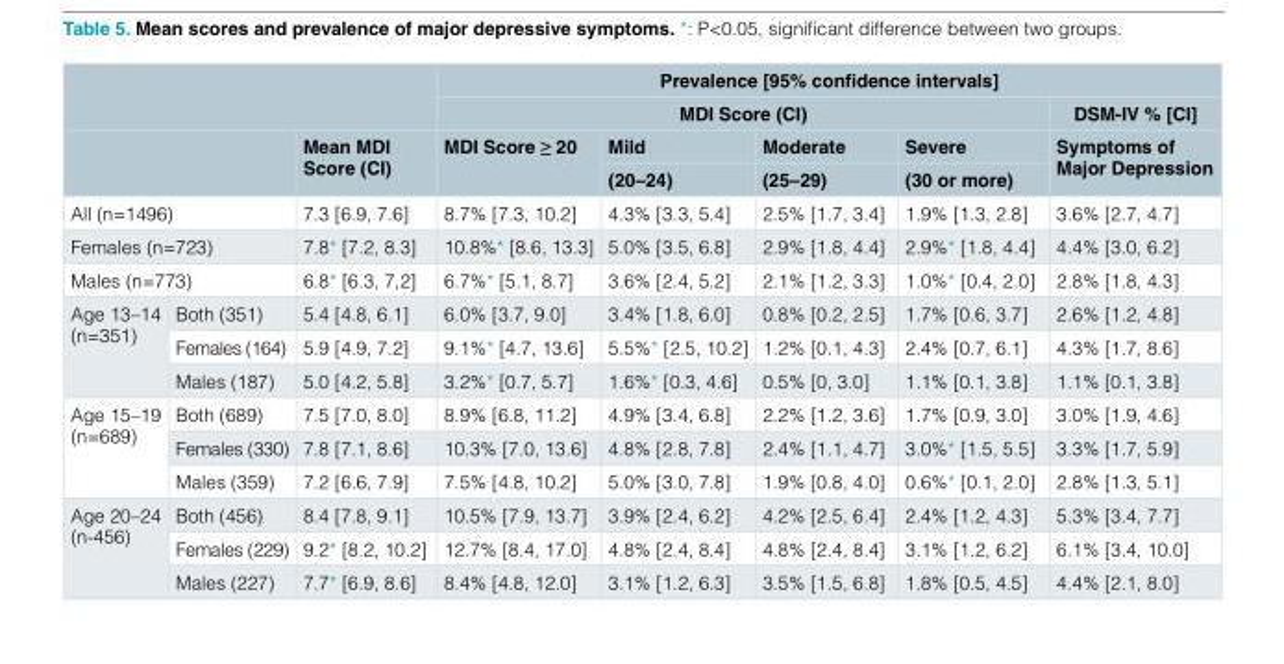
<table><thead><tr><td rowspan="4"></td><td rowspan="4"></td><td rowspan="4">Mean MDI Score (CI)</td><td colspan="5">Prevalence [95% confidence intervals]</td></tr><tr><td colspan="4">MDI Score (CI)</td><td rowspan="3">DSM-IV % [CI] Symptoms of Major Depression</td></tr><tr><td rowspan="2">MDI Score ≥ 20</td><td rowspan="2">Mild (20–24)</td><td rowspan="2">Moderate (25–29)</td><td rowspan="2">Severe (30 or more)</td></tr><tr></tr></thead><tbody><tr><td colspan="2">All (n=1496)</td><td>7.3 [6.9, 7.6]</td><td>8.7% [7.3, 10.2]</td><td>4.3% [3.3, 5.4]</td><td>2.5% [1.7, 3.4]</td><td>1.9% [1.3, 2.8]</td><td>3.6% [2.7, 4.7]</td></tr><tr><td colspan="2">Females (n=723)</td><td>7.8* [7.2, 8.3]</td><td>10.8%* [8.6, 13.3]</td><td>5.0% [3.5, 6.8]</td><td>2.9% [1.8, 4.4]</td><td>2.9%* [1.8, 4.4]</td><td>4.4% [3.0, 6.2]</td></tr><tr><td colspan="2">Males (n=773)</td><td>6.8* [6.3, 7,2]</td><td>6.7%* [5.1, 8.7]</td><td>3.6% [2.4, 5.2]</td><td>2.1% [1.2, 3.3]</td><td>1.0%* [0.4, 2.0]</td><td>2.8% [1.8, 4.3]</td></tr><tr><td rowspan="3">Age 13–14 (n=351)</td><td>Both (351)</td><td>5.4 [4.8, 6.1]</td><td>6.0% [3.7, 9.0]</td><td>3.4% [1.8, 6.0]</td><td>0.8% [0.2, 2.5]</td><td>1.7% [0.6, 3.7]</td><td>2.6% [1.2, 4.8]</td></tr><tr><td>Females (164)</td><td>5.9 [4.9, 7.2]</td><td>9.1%* [4.7, 13.6]</td><td>5.5%* [2.5, 10.2]</td><td>1.2% [0.1, 4.3]</td><td>2.4% [0.7, 6.1]</td><td>4.3% [1.7, 8.6]</td></tr><tr><td>Males (187)</td><td>5.0 [4.2, 5.8]</td><td>3.2%* [0.7, 5.7]</td><td>1.6%* [0.3, 4.6]</td><td>0.5% [0, 3.0]</td><td>1.1% [0.1, 3.8]</td><td>1.1% [0.1, 3.8]</td></tr><tr><td rowspan="3">Age 15–19 (n=689)</td><td>Both (689)</td><td>7.5 [7.0, 8.0]</td><td>8.9% [6.8, 11.2]</td><td>4.9% [3.4, 6.8]</td><td>2.2% [1.2, 3.6]</td><td>1.7% [0.9, 3.0]</td><td>3.0% [1.9, 4.6]</td></tr><tr><td>Females (330)</td><td>7.8 [7.1, 8.6]</td><td>10.3% [7.0, 13.6]</td><td>4.8% [2.8, 7.8]</td><td>2.4% [1.1, 4.7]</td><td>3.0%* [1.5, 5.5]</td><td>3.3% [1.7, 5.9]</td></tr><tr><td>Males (359)</td><td>7.2 [6.6, 7.9]</td><td>7.5% [4.8, 10.2]</td><td>5.0% [3.0, 7.8]</td><td>1.9% [0.8, 4.0]</td><td>0.6%* [0.1, 2.0]</td><td>2.8% [1.3, 5.1]</td></tr><tr><td rowspan="3">Age 20–24 (n-456)</td><td>Both (456)</td><td>8.4 [7.8, 9.1]</td><td>10.5% [7.9, 13.7]</td><td>3.9% [2.4, 6.2]</td><td>4.2% [2.5, 6.4]</td><td>2.4% [1.2, 4.3]</td><td>5.3% [3.4, 7.7]</td></tr><tr><td>Females (229)</td><td>9.2* [8.2, 10.2]</td><td>12.7% [8.4, 17.0]</td><td>4.8% [2.4, 8.4]</td><td>4.8% [2.4, 8.4]</td><td>3.1% [1.2, 6.2]</td><td>6.1% [3.4, 10.0]</td></tr><tr><td>Males (227)</td><td>7.7* [6.9, 8.6]</td><td>8.4% [4.8, 12.0]</td><td>3.1% [1.2, 6.3]</td><td>3.5% [1.5, 6.8]</td><td>1.8% [0.5, 4.5]</td><td>4.4% [2.1, 8.0]</td></tr></tbody></table>